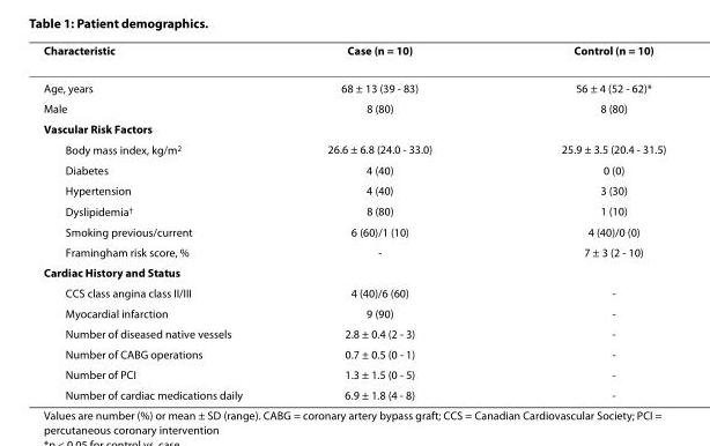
<table><thead><tr><td>Characteristic</td><td>Case (n = 10)</td><td>Control (n = 10)</td></tr></thead><tbody><tr><td>Age, years</td><td>68 ± 13 (39 - 83)</td><td>56 ± 4 (52 - 62)*</td></tr><tr><td>Male</td><td>8 (80)</td><td>8 (80)</td></tr><tr><td colspan="3">Vascular Risk Factors</td></tr><tr><td>Body mass index, kg/m<sup>2</sup></td><td>26.6 ± 6.8 (24.0 - 33.0)</td><td>25.9 ± 3.5 (20.4 - 31.5)</td></tr><tr><td>Diabetes</td><td>4 (40)</td><td>0 (0)</td></tr><tr><td>Hypertension</td><td>4 (40)</td><td>3 (30)</td></tr><tr><td>Dyslipidemia<sup>†</sup></td><td>8 (80)</td><td>1 (10)</td></tr><tr><td>Smoking previous/current</td><td>6 (60)/1 (10)</td><td>4 (40)/0 (0)</td></tr><tr><td>Framingham risk score, %</td><td>-</td><td>7 ± 3 (2 - 10)</td></tr><tr><td colspan="3">Cardiac History and Status</td></tr><tr><td>CCS class angina class II/III</td><td>4 (40)/6 (60)</td><td>-</td></tr><tr><td>Myocardial infarction</td><td>9 (90)</td><td>-</td></tr><tr><td>Number of diseased native vessels</td><td>2.8 ± 0.4 (2 - 3)</td><td>-</td></tr><tr><td>Number of CABG operations</td><td>0.7 ± 0.5 (0 - 1)</td><td>-</td></tr><tr><td>Number of PCI</td><td>1.3 ± 1.5 (0 - 5)</td><td>-</td></tr><tr><td>Number of cardiac medications daily</td><td>6.9 ± 1.8 (4 - 8)</td><td>-</td></tr></tbody></table>